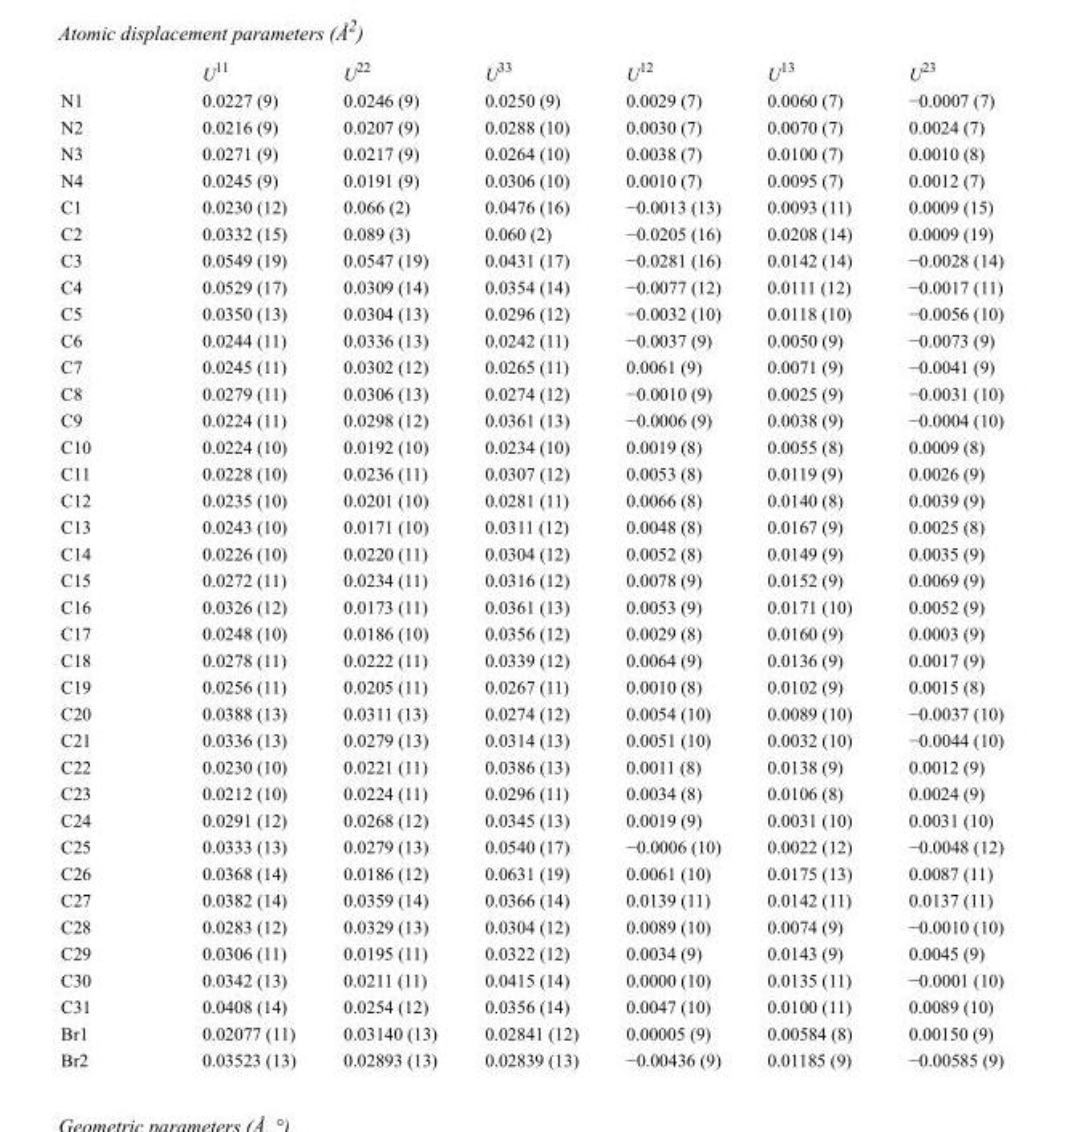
<table><thead><tr><td></td><td>U<sup>11</sup></td><td>U<sup>22</sup></td><td>U<sup>33</sup></td><td>U<sup>12</sup></td><td>U<sup>13</sup></td><td>U<sup>23</sup></td></tr></thead><tbody><tr><td>N1</td><td>0.0227 (9)</td><td>0.0246 (9)</td><td>0.0250 (9)</td><td>0.0029 (7)</td><td>0.0060 (7)</td><td>−0.0007 (7)</td></tr><tr><td>N2</td><td>0.0216 (9)</td><td>0.0207 (9)</td><td>0.0288 (10)</td><td>0.0030 (7)</td><td>0.0070 (7)</td><td>0.0024 (7)</td></tr><tr><td>N3</td><td>0.0271 (9)</td><td>0.0217 (9)</td><td>0.0264 (10)</td><td>0.0038 (7)</td><td>0.0100 (7)</td><td>0.0010 (8)</td></tr><tr><td>N4</td><td>0.0245 (9)</td><td>0.0191 (9)</td><td>0.0306 (10)</td><td>0.0010 (7)</td><td>0.0095 (7)</td><td>0.0012 (7)</td></tr><tr><td>C1</td><td>0.0230 (12)</td><td>0.066 (2)</td><td>0.0476 (16)</td><td>−0.0013 (13)</td><td>0.0093 (11)</td><td>0.0009 (15)</td></tr><tr><td>C2</td><td>0.0332 (15)</td><td>0.089 (3)</td><td>0.060 (2)</td><td>−0.0205 (16)</td><td>0.0208 (14)</td><td>0.0009 (19)</td></tr><tr><td>C3</td><td>0.0549 (19)</td><td>0.0547 (19)</td><td>0.0431 (17)</td><td>−0.0281 (16)</td><td>0.0142 (14)</td><td>−0.0028 (14)</td></tr><tr><td>C4</td><td>0.0529 (17)</td><td>0.0309 (14)</td><td>0.0354 (14)</td><td>−0.0077 (12)</td><td>0.0111 (12)</td><td>−0.0017 (11)</td></tr><tr><td>C5</td><td>0.0350 (13)</td><td>0.0304 (13)</td><td>0.0296 (12)</td><td>−0.0032 (10)</td><td>0.0118 (10)</td><td>−0.0056 (10)</td></tr><tr><td>C6</td><td>0.0244 (11)</td><td>0.0336 (13)</td><td>0.0242 (11)</td><td>−0.0037 (9)</td><td>0.0050 (9)</td><td>−0.0073 (9)</td></tr><tr><td>C7</td><td>0.0245 (11)</td><td>0.0302 (12)</td><td>0.0265 (11)</td><td>0.0061 (9)</td><td>0.0071 (9)</td><td>−0.0041 (9)</td></tr><tr><td>C8</td><td>0.0279 (11)</td><td>0.0306 (13)</td><td>0.0274 (12)</td><td>−0.0010 (9)</td><td>0.0025 (9)</td><td>−0.0031 (10)</td></tr><tr><td>C9</td><td>0.0224 (11)</td><td>0.0298 (12)</td><td>0.0361 (13)</td><td>−0.0006 (9)</td><td>0.0038 (9)</td><td>−0.0004 (10)</td></tr><tr><td>C10</td><td>0.0224 (10)</td><td>0.0192 (10)</td><td>0.0234 (10)</td><td>0.0019 (8)</td><td>0.0055 (8)</td><td>0.0009 (8)</td></tr><tr><td>C11</td><td>0.0228 (10)</td><td>0.0236 (11)</td><td>0.0307 (12)</td><td>0.0053 (8)</td><td>0.0119 (9)</td><td>0.0026 (9)</td></tr><tr><td>C12</td><td>0.0235 (10)</td><td>0.0201 (10)</td><td>0.0281 (11)</td><td>0.0066 (8)</td><td>0.0140 (8)</td><td>0.0039 (9)</td></tr><tr><td>C13</td><td>0.0243 (10)</td><td>0.0171 (10)</td><td>0.0311 (12)</td><td>0.0048 (8)</td><td>0.0167 (9)</td><td>0.0025 (8)</td></tr><tr><td>C14</td><td>0.0226 (10)</td><td>0.0220 (11)</td><td>0.0304 (12)</td><td>0.0052 (8)</td><td>0.0149 (9)</td><td>0.0035 (9)</td></tr><tr><td>C15</td><td>0.0272 (11)</td><td>0.0234 (11)</td><td>0.0316 (12)</td><td>0.0078 (9)</td><td>0.0152 (9)</td><td>0.0069 (9)</td></tr><tr><td>C16</td><td>0.0326 (12)</td><td>0.0173 (11)</td><td>0.0361 (13)</td><td>0.0053 (9)</td><td>0.0171 (10)</td><td>0.0052 (9)</td></tr><tr><td>C17</td><td>0.0248 (10)</td><td>0.0186 (10)</td><td>0.0356 (12)</td><td>0.0029 (8)</td><td>0.0160 (9)</td><td>0.0003 (9)</td></tr><tr><td>C18</td><td>0.0278 (11)</td><td>0.0222 (11)</td><td>0.0339 (12)</td><td>0.0064 (9)</td><td>0.0136 (9)</td><td>0.0017 (9)</td></tr><tr><td>C19</td><td>0.0256 (11)</td><td>0.0205 (11)</td><td>0.0267 (11)</td><td>0.0010 (8)</td><td>0.0102 (9)</td><td>0.0015 (8)</td></tr><tr><td>C20</td><td>0.0388 (13)</td><td>0.0311 (13)</td><td>0.0274 (12)</td><td>0.0054 (10)</td><td>0.0089 (10)</td><td>−0.0037 (10)</td></tr><tr><td>C21</td><td>0.0336 (13)</td><td>0.0279 (13)</td><td>0.0314 (13)</td><td>0.0051 (10)</td><td>0.0032 (10)</td><td>−0.0044 (10)</td></tr><tr><td>C22</td><td>0.0230 (10)</td><td>0.0221 (11)</td><td>0.0386 (13)</td><td>0.0011 (8)</td><td>0.0138 (9)</td><td>0.0012 (9)</td></tr><tr><td>C23</td><td>0.0212 (10)</td><td>0.0224 (11)</td><td>0.0296 (11)</td><td>0.0034 (8)</td><td>0.0106 (8)</td><td>0.0024 (9)</td></tr><tr><td>C24</td><td>0.0291 (12)</td><td>0.0268 (12)</td><td>0.0345 (13)</td><td>0.0019 (9)</td><td>0.0031 (10)</td><td>0.0031 (10)</td></tr><tr><td>C25</td><td>0.0333 (13)</td><td>0.0279 (13)</td><td>0.0540 (17)</td><td>−0.0006 (10)</td><td>0.0022 (12)</td><td>−0.0048 (12)</td></tr><tr><td>C26</td><td>0.0368 (14)</td><td>0.0186 (12)</td><td>0.0631 (19)</td><td>0.0061 (10)</td><td>0.0175 (13)</td><td>0.0087 (11)</td></tr><tr><td>C27</td><td>0.0382 (14)</td><td>0.0359 (14)</td><td>0.0366 (14)</td><td>0.0139 (11)</td><td>0.0142 (11)</td><td>0.0137 (11)</td></tr><tr><td>C28</td><td>0.0283 (12)</td><td>0.0329 (13)</td><td>0.0304 (12)</td><td>0.0089 (10)</td><td>0.0074 (9)</td><td>−0.0010 (10)</td></tr><tr><td>C29</td><td>0.0306 (11)</td><td>0.0195 (11)</td><td>0.0322 (12)</td><td>0.0034 (9)</td><td>0.0143 (9)</td><td>0.0045 (9)</td></tr><tr><td>C30</td><td>0.0342 (13)</td><td>0.0211 (11)</td><td>0.0415 (14)</td><td>0.0000 (10)</td><td>0.0135 (11)</td><td>−0.0001 (10)</td></tr><tr><td>C31</td><td>0.0408 (14)</td><td>0.0254 (12)</td><td>0.0356 (14)</td><td>0.0047 (10)</td><td>0.0100 (11)</td><td>0.0089 (10)</td></tr><tr><td>Br1</td><td>0.02077 (11)</td><td>0.03140 (13)</td><td>0.02841 (12)</td><td>0.00005 (9)</td><td>0.00584 (8)</td><td>0.00150 (9)</td></tr><tr><td>Br2</td><td>0.03523 (13)</td><td>0.02893 (13)</td><td>0.02839 (13)</td><td>−0.00436 (9)</td><td>0.01185 (9)</td><td>−0.00585 (9)</td></tr></tbody></table>